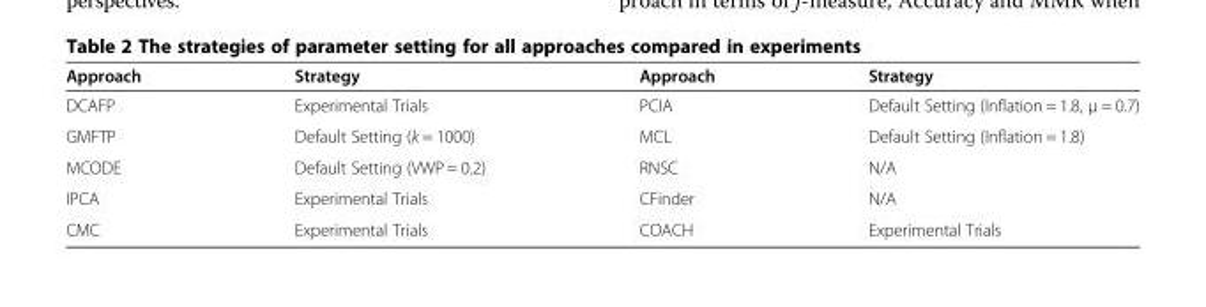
<table><thead><tr><td>Approach</td><td>Strategy</td><td>Approach</td><td>Strategy</td></tr></thead><tbody><tr><td>DCAFP</td><td>Experimental Trials</td><td>PCIA</td><td>Default Setting (Inflation = 1.8, μ = 0.7)</td></tr><tr><td>GMFTP</td><td>Default Setting (k = 1000)</td><td>MCL</td><td>Default Setting (Inflation = 1.8)</td></tr><tr><td>MCODE</td><td>Default Setting (VWP = 0.2)</td><td>RNSC</td><td>N/A</td></tr><tr><td>IPCA</td><td>Experimental Trials</td><td>CFinder</td><td>N/A</td></tr><tr><td>CMC</td><td>Experimental Trials</td><td>COACH</td><td>Experimental Trials</td></tr></tbody></table>